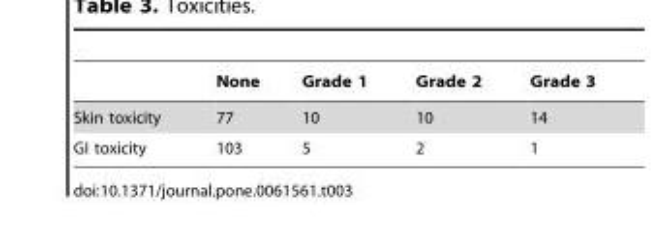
<table><thead><tr><td></td><td>None</td><td>Grade 1</td><td>Grade 2</td><td>Grade 3</td></tr></thead><tbody><tr><td>Skin toxicity</td><td>77</td><td>10</td><td>10</td><td>14</td></tr><tr><td>GI toxicity</td><td>103</td><td>5</td><td>2</td><td>1</td></tr></tbody></table>